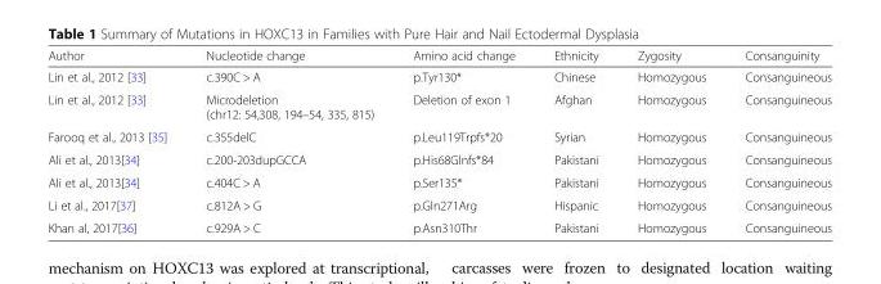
<table><thead><tr><td>Author</td><td>Nucleotide change</td><td>Amino acid change</td><td>Ethnicity</td><td>Zygosity</td><td>Consanguinity</td></tr></thead><tbody><tr><td>Lin et al., 2012 [33]</td><td>c.390C &gt; A</td><td>p.Tyr130*</td><td>Chinese</td><td>Homozygous</td><td>Consanguineous</td></tr><tr><td>Lin et al., 2012 [33]</td><td>Microdeletion (chr12: 54,308, 194–54, 335, 815)</td><td>Deletion of exon 1</td><td>Afghan</td><td>Homozygous</td><td>Consanguineous</td></tr><tr><td>Farooq et al., 2013 [35]</td><td>c.355delC</td><td>p.Leu119Trpfs*20</td><td>Syrian</td><td>Homozygous</td><td>Consanguineous</td></tr><tr><td>Ali et al., 2013[34]</td><td>c.200-203dupGCCA</td><td>p.His68Glnfs*84</td><td>Pakistani</td><td>Homozygous</td><td>Consanguineous</td></tr><tr><td>Ali et al., 2013[34]</td><td>c.404C &gt; A</td><td>p.Ser135*</td><td>Pakistani</td><td>Homozygous</td><td>Consanguineous</td></tr><tr><td>Li et al., 2017[37]</td><td>c.812A &gt; G</td><td>p.Gln271Arg</td><td>Hispanic</td><td>Homozygous</td><td>Consanguineous</td></tr><tr><td>Khan al, 2017[36]</td><td>c.929A &gt; C</td><td>p.Asn310Thr</td><td>Pakistani</td><td>Homozygous</td><td>Consanguineous</td></tr></tbody></table>